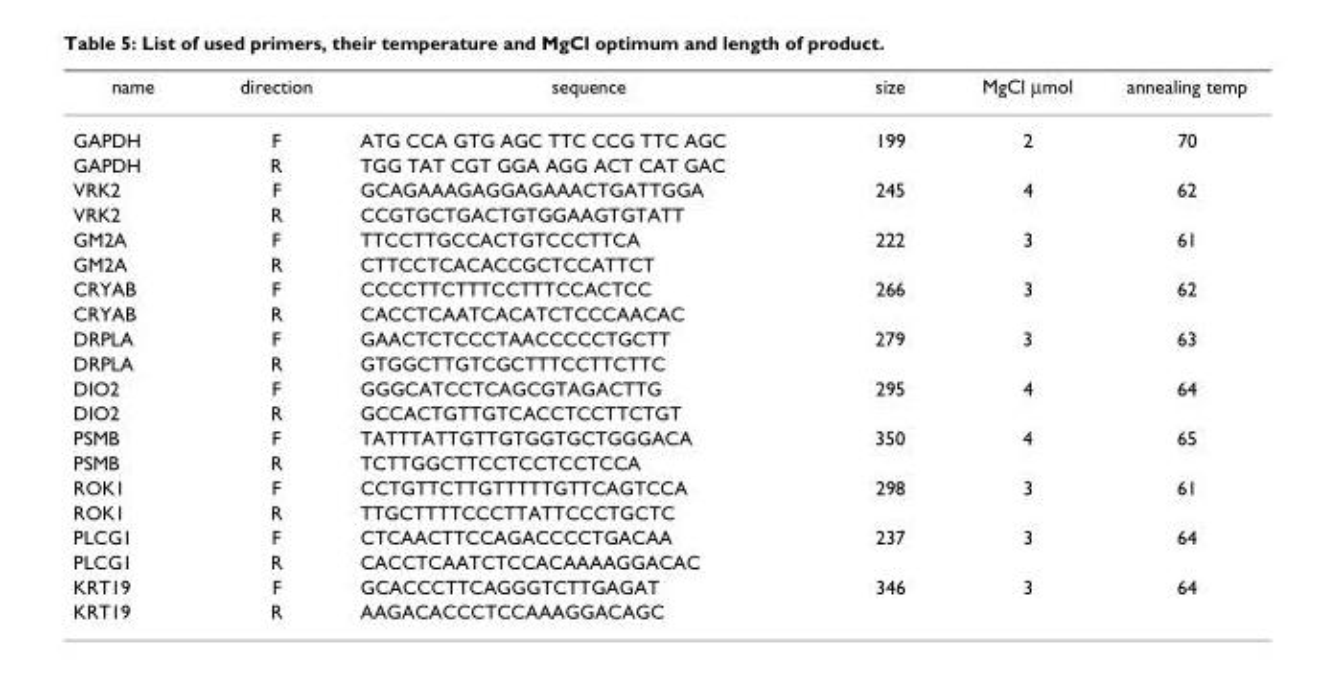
<table><thead><tr><td>name</td><td>direction</td><td>sequence</td><td>size</td><td>MgCl μmol</td><td>annealing temp</td></tr></thead><tbody><tr><td>GAPDH</td><td>F</td><td>ATG CCA GTG AGC TTC CCG TTC AGC</td><td>199</td><td>2</td><td>70</td></tr><tr><td>GAPDH</td><td>R</td><td>TGG TAT CGT GGA AGG ACT CAT GAC</td><td></td><td></td><td></td></tr><tr><td>VRK2</td><td>F</td><td>GCAGAAAGAGGAGAAACTGATTGGA</td><td>245</td><td>4</td><td>62</td></tr><tr><td>VRK2</td><td>R</td><td>CCGTGCTGACTGTGGAAGTGTATT</td><td></td><td></td><td></td></tr><tr><td>GM2A</td><td>F</td><td>TTCCTTGCCACTGTCCCTTCA</td><td>222</td><td>3</td><td>61</td></tr><tr><td>GM2A</td><td>R</td><td>CTTCCTCACACCGCTCCATTCT</td><td></td><td></td><td></td></tr><tr><td>CRYAB</td><td>F</td><td>CCCCTTCTTTCCTTTCCACTCC</td><td>266</td><td>3</td><td>62</td></tr><tr><td>CRYAB</td><td>R</td><td>CACCTCAATCACATCTCCCAACAC</td><td></td><td></td><td></td></tr><tr><td>DRPLA</td><td>F</td><td>GAACTCTCCCTAACCCCCTGCTT</td><td>279</td><td>3</td><td>63</td></tr><tr><td>DRPLA</td><td>R</td><td>GTGGCTTGTCGCTTTCCTTCTTC</td><td></td><td></td><td></td></tr><tr><td>DIO2</td><td>F</td><td>GGGCATCCTCAGCGTAGACTTG</td><td>295</td><td>4</td><td>64</td></tr><tr><td>DIO2</td><td>R</td><td>GCCACTGTTGTCACCTCCTTCTGT</td><td></td><td></td><td></td></tr><tr><td>PSMB</td><td>F</td><td>TATTTATTGTTGTGGTGCTGGGACA</td><td>350</td><td>4</td><td>65</td></tr><tr><td>PSMB</td><td>R</td><td>TCTTGGCTTCCTCCTCCTCCA</td><td></td><td></td><td></td></tr><tr><td>ROK1</td><td>F</td><td>CCTGTTCTTGTTTTTGTTCAGTCCA</td><td>298</td><td>3</td><td>61</td></tr><tr><td>ROK1</td><td>R</td><td>TTGCTTTTCCCTTATTCCCTGCTC</td><td></td><td></td><td></td></tr><tr><td>PLCG1</td><td>F</td><td>CTCAACTTCCAGACCCCTGACAA</td><td>237</td><td>3</td><td>64</td></tr><tr><td>PLCG1</td><td>R</td><td>CACCTCAATCTCCACAAAAGGACAC</td><td></td><td></td><td></td></tr><tr><td>KRT19</td><td>F</td><td>GCACCCTTCAGGGTCTTGAGAT</td><td>346</td><td>3</td><td>64</td></tr><tr><td>KRT19</td><td>R</td><td>AAGACACCCTCCAAAGGACAGC</td><td></td><td></td><td></td></tr></tbody></table>